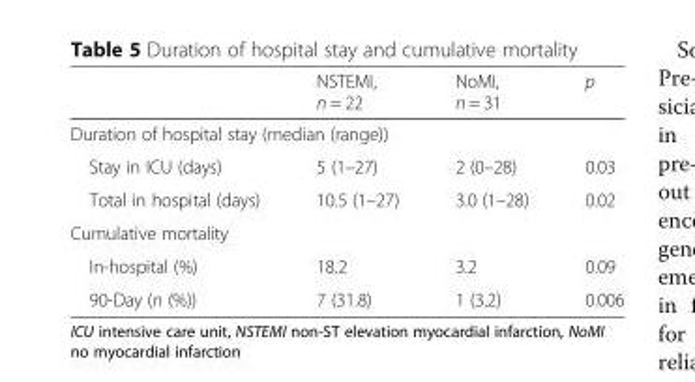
<table><thead><tr><td></td><td>NSTEMI, n = 22</td><td>NoMI, n = 31</td><td>p</td></tr></thead><tbody><tr><td colspan="4">Duration of hospital stay (median (range))</td></tr><tr><td>Stay in ICU (days)</td><td>5 (1–27)</td><td>2 (0–28)</td><td>0.03</td></tr><tr><td>Total in hospital (days)</td><td>10.5 (1–27)</td><td>3.0 (1–28)</td><td>0.02</td></tr><tr><td colspan="4">Cumulative mortality</td></tr><tr><td>In-hospital (%)</td><td>18.2</td><td>3.2</td><td>0.09</td></tr><tr><td>90-Day (n (%))</td><td>7 (31.8)</td><td>1 (3.2)</td><td>0.006</td></tr></tbody></table>